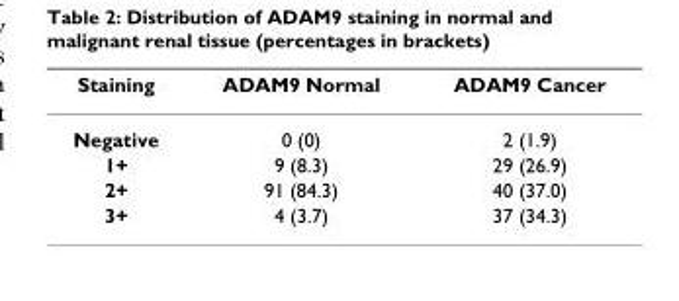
<table><thead><tr><td>Staining</td><td>ADAM9 Normal</td><td>ADAM9 Cancer</td></tr></thead><tbody><tr><td>Negative</td><td>0 (0)</td><td>2 (1.9)</td></tr><tr><td>1+</td><td>9 (8.3)</td><td>29 (26.9)</td></tr><tr><td>2+</td><td>91 (84.3)</td><td>40 (37.0)</td></tr><tr><td>3+</td><td>4 (3.7)</td><td>37 (34.3)</td></tr></tbody></table>